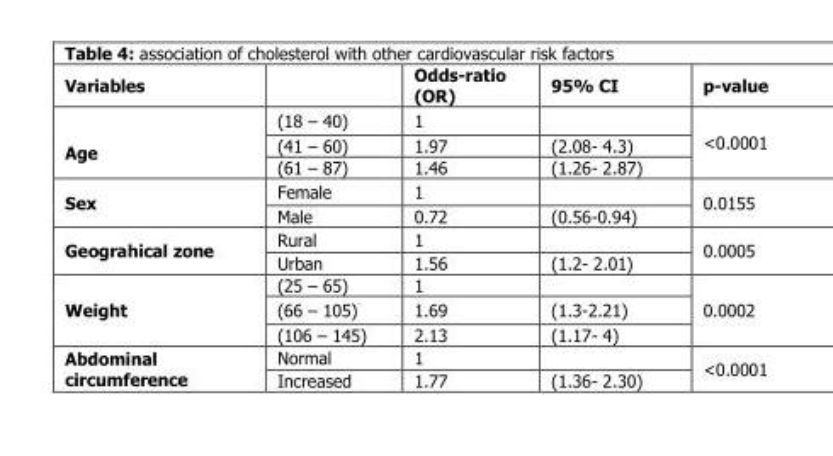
<table><thead><tr><td>Variables</td><td></td><td>Odds-ratio (OR)</td><td>95% CI</td><td>p-value</td></tr></thead><tbody><tr><td rowspan="3">Age</td><td>(18 – 40)</td><td>1</td><td></td><td rowspan="3">&lt;0.0001</td></tr><tr><td>(41 – 60)</td><td>1.97</td><td>(2.08- 4.3)</td></tr><tr><td>(61 – 87)</td><td>1.46</td><td>(1.26- 2.87)</td></tr><tr><td rowspan="2">Sex</td><td>Female</td><td>1</td><td></td><td rowspan="2">0.0155</td></tr><tr><td>Male</td><td>0.72</td><td>(0.56-0.94)</td></tr><tr><td rowspan="2">Geograhical zone</td><td>Rural</td><td>1</td><td></td><td rowspan="2">0.0005</td></tr><tr><td>Urban</td><td>1.56</td><td>(1.2- 2.01)</td></tr><tr><td rowspan="3">Weight</td><td>(25 – 65)</td><td>1</td><td></td><td rowspan="3">0.0002</td></tr><tr><td>(66 – 105)</td><td>1.69</td><td>(1.3-2.21)</td></tr><tr><td>(106 – 145)</td><td>2.13</td><td>(1.17- 4)</td></tr><tr><td rowspan="2">Abdominal circumference</td><td>Normal</td><td>1</td><td></td><td rowspan="2">&lt;0.0001</td></tr><tr><td>Increased</td><td>1.77</td><td>(1.36- 2.30)</td></tr></tbody></table>